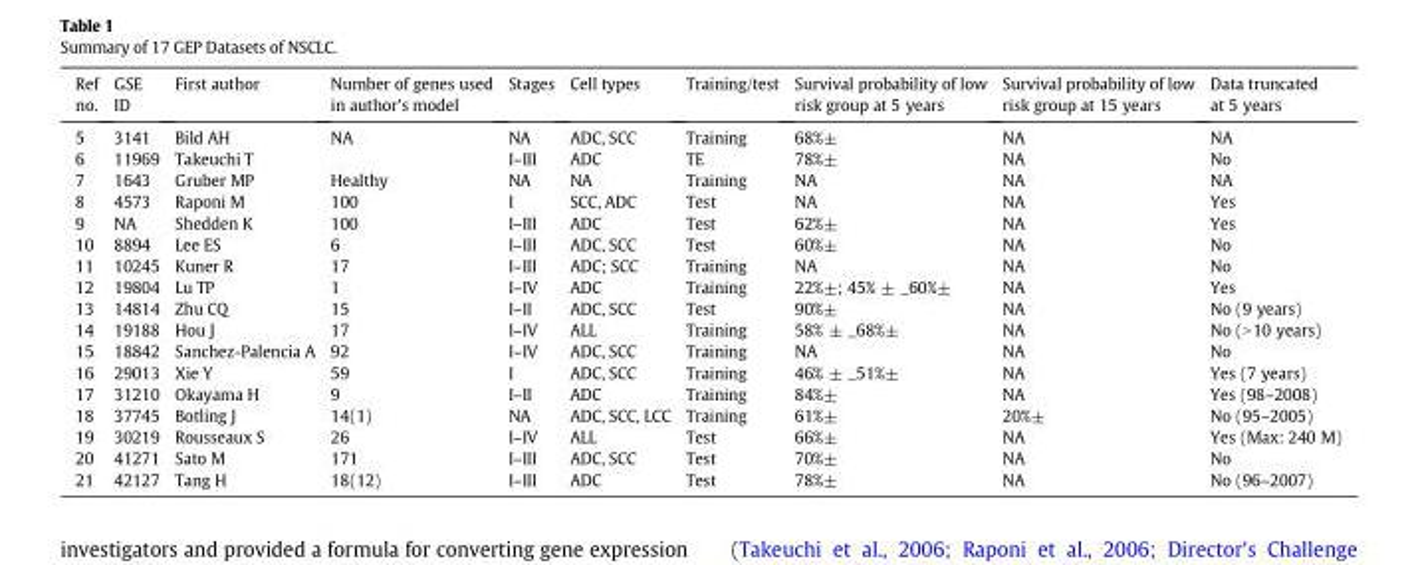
<table><thead><tr><td>Ref no.</td><td>GSE ID</td><td>First author</td><td>Number of genes used in author&#x27;s model</td><td>Stages</td><td>Cell types</td><td>Training/test</td><td>Survival probability of low risk group at 5 years</td><td>Survival probability of low risk group at 15 years</td><td>Data truncated at 5 years</td></tr></thead><tbody><tr><td>5</td><td>3141</td><td>Bild AH</td><td>NA</td><td>NA</td><td>ADC, SCC</td><td>Training</td><td>68%±</td><td>NA</td><td>NA</td></tr><tr><td>6</td><td>11969</td><td>Takeuchi T</td><td></td><td>I–III</td><td>ADC</td><td>TE</td><td>78%±</td><td>NA</td><td>No</td></tr><tr><td>7</td><td>1643</td><td>Gruber MP</td><td>Healthy</td><td>NA</td><td>NA</td><td>Training</td><td>NA</td><td>NA</td><td>NA</td></tr><tr><td>8</td><td>4573</td><td>Raponi M</td><td>100</td><td>I</td><td>SCC, ADC</td><td>Test</td><td>NA</td><td>NA</td><td>Yes</td></tr><tr><td>9</td><td>NA</td><td>Shedden K</td><td>100</td><td>I–III</td><td>ADC</td><td>Test</td><td>62%±</td><td>NA</td><td>Yes</td></tr><tr><td>10</td><td>8894</td><td>Lee ES</td><td>6</td><td>I–III</td><td>ADC, SCC</td><td>Test</td><td>60%±</td><td>NA</td><td>No</td></tr><tr><td>11</td><td>10245</td><td>Kuner R</td><td>17</td><td>I–III</td><td>ADC; SCC</td><td>Training</td><td>NA</td><td>NA</td><td>No</td></tr><tr><td>12</td><td>19804</td><td>Lu TP</td><td>1</td><td>I–IV</td><td>ADC</td><td>Training</td><td>22%±; 45% ± _60%±</td><td>NA</td><td>Yes</td></tr><tr><td>13</td><td>14814</td><td>Zhu CQ</td><td>15</td><td>I–II</td><td>ADC, SCC</td><td>Test</td><td>90%±</td><td>NA</td><td>No (9 years)</td></tr><tr><td>14</td><td>19188</td><td>Hou J</td><td>17</td><td>I–IV</td><td>ALL</td><td>Training</td><td>58% ± _68%±</td><td>NA</td><td>No (&gt;10 years)</td></tr><tr><td>15</td><td>18842</td><td>Sanchez-Palencia A</td><td>92</td><td>I–IV</td><td>ADC, SCC</td><td>Training</td><td>NA</td><td>NA</td><td>No</td></tr><tr><td>16</td><td>29013</td><td>Xie Y</td><td>59</td><td>I</td><td>ADC, SCC</td><td>Training</td><td>46% ± _51%±</td><td>NA</td><td>Yes (7 years)</td></tr><tr><td>17</td><td>31210</td><td>Okayama H</td><td>9</td><td>I–II</td><td>ADC</td><td>Training</td><td>84%±</td><td>NA</td><td>Yes (98–2008)</td></tr><tr><td>18</td><td>37745</td><td>Botling J</td><td>14(1)</td><td>NA</td><td>ADC, SCC, LCC</td><td>Training</td><td>61%±</td><td>20%±</td><td>No (95–2005)</td></tr><tr><td>19</td><td>30219</td><td>Rousseaux S</td><td>26</td><td>I–IV</td><td>ALL</td><td>Test</td><td>66%±</td><td>NA</td><td>Yes (Max: 240 M)</td></tr><tr><td>20</td><td>41271</td><td>Sato M</td><td>171</td><td>I–III</td><td>ADC, SCC</td><td>Test</td><td>70%±</td><td>NA</td><td>No</td></tr><tr><td>21</td><td>42127</td><td>Tang H</td><td>18(12)</td><td>I–III</td><td>ADC</td><td>Test</td><td>78%±</td><td>NA</td><td>No (96–2007)</td></tr></tbody></table>